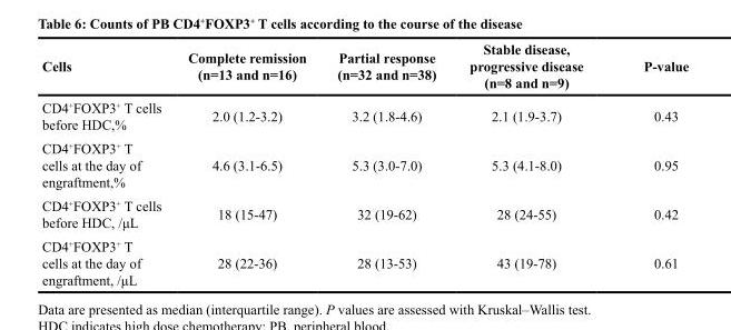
<table><thead><tr><td>Cells</td><td>Complete remission (n=13 and n=16)</td><td>Partial response (n=32 and n=38)</td><td>Stable disease, progressive disease (n=8 and n=9)</td><td>P-value</td></tr></thead><tbody><tr><td>CD4<sup>+</sup>FOXP3<sup>+</sup> T cells before HDC,%</td><td>2.0 (1.2-3.2)</td><td>3.2 (1.8-4.6)</td><td>2.1 (1.9-3.7)</td><td>0.43</td></tr><tr><td>CD4<sup>+</sup>FOXP3<sup>+</sup> T cells at the day of engraftment,%</td><td>4.6 (3.1-6.5)</td><td>5.3 (3.0-7.0)</td><td>5.3 (4.1-8.0)</td><td>0.95</td></tr><tr><td>CD4<sup>+</sup>FOXP3<sup>+</sup> T cells before HDC, /μL</td><td>18 (15-47)</td><td>32 (19-62)</td><td>28 (24-55)</td><td>0.42</td></tr><tr><td>CD4<sup>+</sup>FOXP3<sup>+</sup> T cells at the day of engraftment, /μL</td><td>28 (22-36)</td><td>28 (13-53)</td><td>43 (19-78)</td><td>0.61</td></tr></tbody></table>